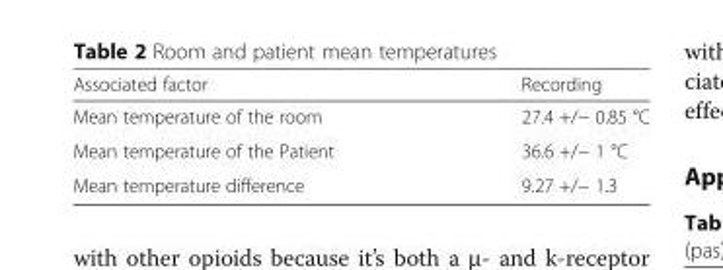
<table><thead><tr><td>Associated factor</td><td>Recording</td></tr></thead><tbody><tr><td>Mean temperature of the room</td><td>27.4 +/− 0.85 °C</td></tr><tr><td>Mean temperature of the Patient</td><td>36.6 +/− 1 °C</td></tr><tr><td>Mean temperature difference</td><td>9.27 +/− 1.3</td></tr></tbody></table>